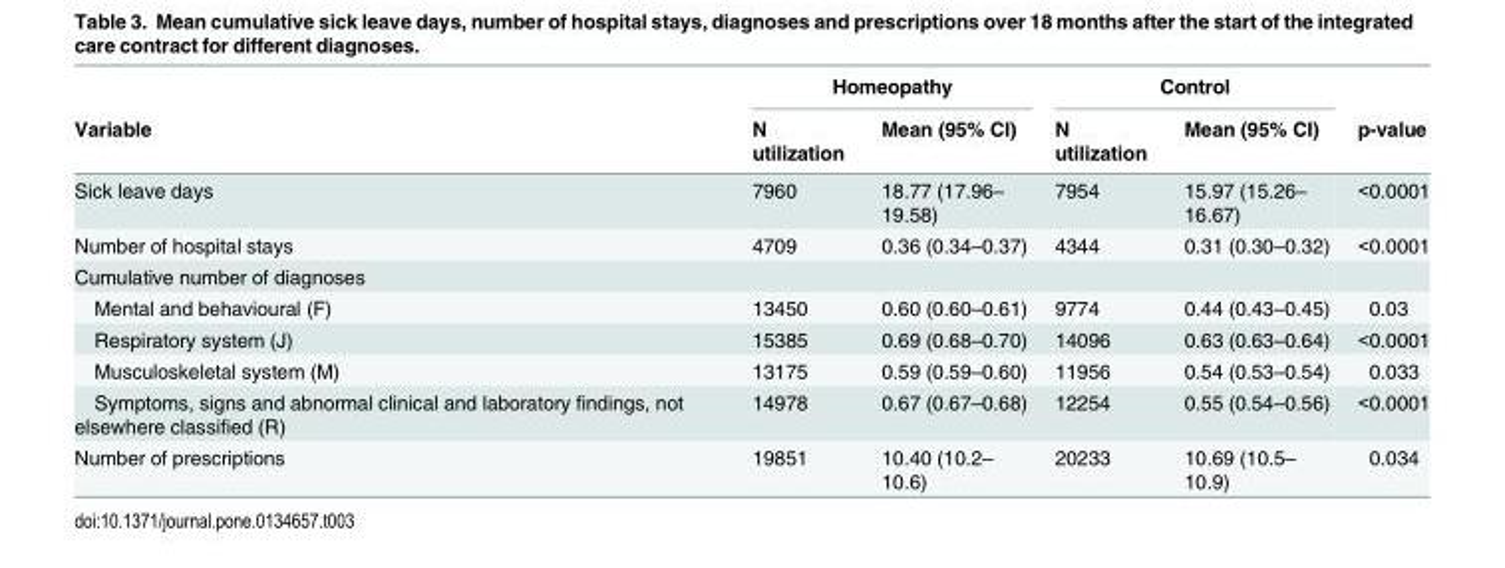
<table><thead><tr><td rowspan="2">Variable</td><td colspan="2">Homeopathy</td><td colspan="2">Control</td><td rowspan="2">p-value</td></tr><tr><td>N utilization</td><td>Mean (95% CI)</td><td>N utilization</td><td>Mean (95% CI)</td></tr></thead><tbody><tr><td>Sick leave days</td><td>7960</td><td>18.77 (17.96– 19.58)</td><td>7954</td><td>15.97 (15.26– 16.67)</td><td>&lt;0.0001</td></tr><tr><td>Number of hospital stays</td><td>4709</td><td>0.36 (0.34–0.37)</td><td>4344</td><td>0.31 (0.30–0.32)</td><td>&lt;0.0001</td></tr><tr><td colspan="6">Cumulative number of diagnoses</td></tr><tr><td>Mental and behavioural (F)</td><td>13450</td><td>0.60 (0.60–0.61)</td><td>9774</td><td>0.44 (0.43–0.45)</td><td>0.03</td></tr><tr><td>Respiratory system (J)</td><td>15385</td><td>0.69 (0.68–0.70)</td><td>14096</td><td>0.63 (0.63–0.64)</td><td>&lt;0.0001</td></tr><tr><td>Musculoskeletal system (M)</td><td>13175</td><td>0.59 (0.59–0.60)</td><td>11956</td><td>0.54 (0.53–0.54)</td><td>0.033</td></tr><tr><td>Symptoms, signs and abnormal clinical and laboratory findings, not elsewhere classified (R)</td><td>14978</td><td>0.67 (0.67–0.68)</td><td>12254</td><td>0.55 (0.54–0.56)</td><td>&lt;0.0001</td></tr><tr><td>Number of prescriptions</td><td>19851</td><td>10.40 (10.2– 10.6)</td><td>20233</td><td>10.69 (10.5– 10.9)</td><td>0.034</td></tr></tbody></table>